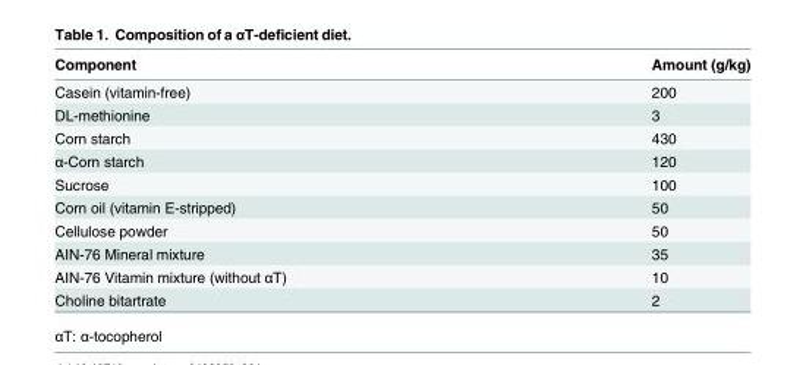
<table><thead><tr><td>Component</td><td>Amount (g/kg)</td></tr></thead><tbody><tr><td>Casein (vitamin-free)</td><td>200</td></tr><tr><td>DL-methionine</td><td>3</td></tr><tr><td>Corn starch</td><td>430</td></tr><tr><td>α-Corn starch</td><td>120</td></tr><tr><td>Sucrose</td><td>100</td></tr><tr><td>Corn oil (vitamin E-stripped)</td><td>50</td></tr><tr><td>Cellulose powder</td><td>50</td></tr><tr><td>AIN-76 Mineral mixture</td><td>35</td></tr><tr><td>AIN-76 Vitamin mixture (without αT)</td><td>10</td></tr><tr><td>Choline bitartrate</td><td>2</td></tr></tbody></table>